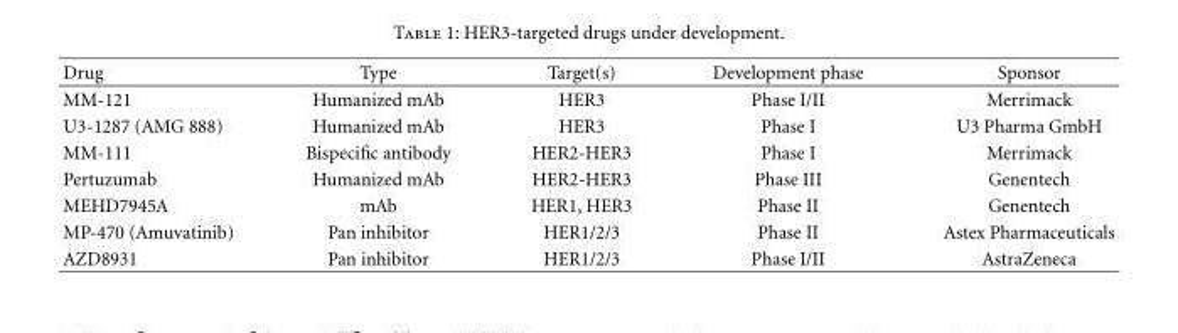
<table><thead><tr><td>Drug</td><td>Type</td><td>Target(s)</td><td>Development phase</td><td>Sponsor</td></tr></thead><tbody><tr><td>MM-121</td><td>Humanized mAb</td><td>HER3</td><td>Phase I/II</td><td>Merrimack</td></tr><tr><td>U3-1287 (AMG 888)</td><td>Humanized mAb</td><td>HER3</td><td>Phase I</td><td>U3 Pharma GmbH</td></tr><tr><td>MM-111</td><td>Bispecific antibody</td><td>HER2-HER3</td><td>Phase I</td><td>Merrimack</td></tr><tr><td>Pertuzumab</td><td>Humanized mAb</td><td>HER2-HER3</td><td>Phase III</td><td>Genentech</td></tr><tr><td>MEHD7945A</td><td>mAb</td><td>HER1, HER3</td><td>Phase II</td><td>Genentech</td></tr><tr><td>MP-470 (Amuvatinib)</td><td>Pan inhibitor</td><td>HER1/2/3</td><td>Phase II</td><td>Astex Pharmaceuticals</td></tr><tr><td>AZD8931</td><td>Pan inhibitor</td><td>HER1/2/3</td><td>Phase I/II</td><td>AstraZeneca</td></tr></tbody></table>